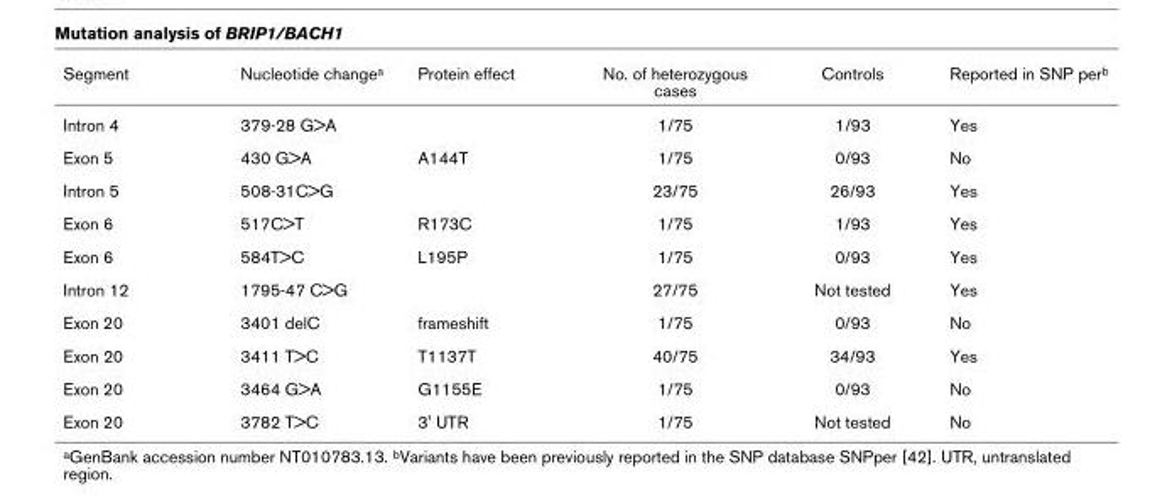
<table><thead><tr><td>Segment</td><td>Nucleotide changea</td><td>Protein effect</td><td>No. of heterozygous cases</td><td>Controls</td><td>Reported in SNP perb</td></tr></thead><tbody><tr><td>Intron 4</td><td>379-28 G&gt;A</td><td></td><td>1/75</td><td>1/93</td><td>Yes</td></tr><tr><td>Exon 5</td><td>430 G&gt;A</td><td>A144T</td><td>1/75</td><td>0/93</td><td>No</td></tr><tr><td>Intron 5</td><td>508-31C&gt;G</td><td></td><td>23/75</td><td>26/93</td><td>Yes</td></tr><tr><td>Exon 6</td><td>517C&gt;T</td><td>R173C</td><td>1/75</td><td>1/93</td><td>Yes</td></tr><tr><td>Exon 6</td><td>584T&gt;C</td><td>L195P</td><td>1/75</td><td>0/93</td><td>Yes</td></tr><tr><td>Intron 12</td><td>1795-47 C&gt;G</td><td></td><td>27/75</td><td>Not tested</td><td>Yes</td></tr><tr><td>Exon 20</td><td>3401 delC</td><td>frameshift</td><td>1/75</td><td>0/93</td><td>No</td></tr><tr><td>Exon 20</td><td>3411 T&gt;C</td><td>T1137T</td><td>40/75</td><td>34/93</td><td>Yes</td></tr><tr><td>Exon 20</td><td>3464 G&gt;A</td><td>G1155E</td><td>1/75</td><td>0/93</td><td>No</td></tr><tr><td>Exon 20</td><td>3782 T&gt;C</td><td>3&#x27; UTR</td><td>1/75</td><td>Not tested</td><td>No</td></tr></tbody></table>